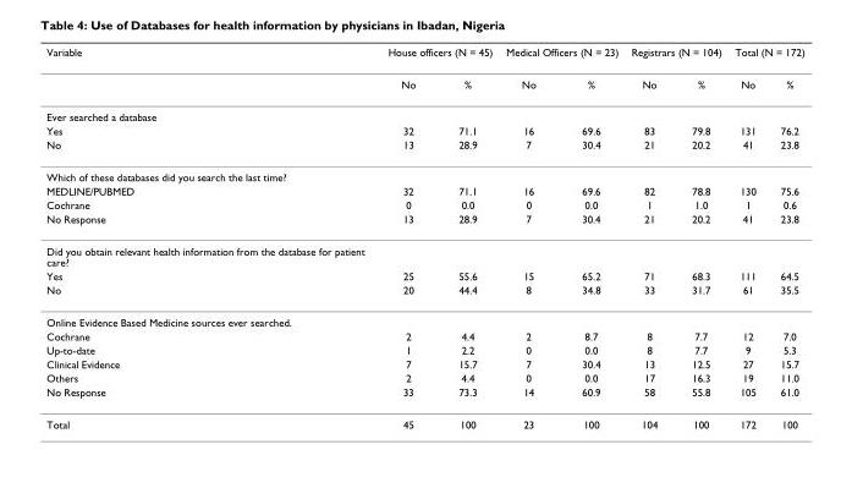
<table><thead><tr><td rowspan="2">Variable</td><td colspan="2">House officers (N = 45)</td><td colspan="2">Medical Officers (N = 23)</td><td colspan="2">Registrars (N = 104)</td><td colspan="2">Total (N = 172)</td></tr><tr><td>No</td><td>%</td><td>No</td><td>%</td><td>No</td><td>%</td><td>No</td><td>%</td></tr></thead><tbody><tr><td colspan="9">Ever searched a database</td></tr><tr><td>Yes</td><td>32</td><td>71.1</td><td>16</td><td>69.6</td><td>83</td><td>79.8</td><td>131</td><td>76.2</td></tr><tr><td>No</td><td>13</td><td>28.9</td><td>7</td><td>30.4</td><td>21</td><td>20.2</td><td>41</td><td>23.8</td></tr><tr><td colspan="9">Which of these databases did you search the last time?</td></tr><tr><td>MEDLINE/PUBMED</td><td>32</td><td>71.1</td><td>16</td><td>69.6</td><td>82</td><td>78.8</td><td>130</td><td>75.6</td></tr><tr><td>Cochrane</td><td>0</td><td>0.0</td><td>0</td><td>0.0</td><td>1</td><td>1.0</td><td>1</td><td>0.6</td></tr><tr><td>No Response</td><td>13</td><td>28.9</td><td>7</td><td>30.4</td><td>21</td><td>20.2</td><td>41</td><td>23.8</td></tr><tr><td colspan="9">Did you obtain relevant health information from the database for patient care?</td></tr><tr><td>Yes</td><td>25</td><td>55.6</td><td>15</td><td>65.2</td><td>71</td><td>68.3</td><td>111</td><td>64.5</td></tr><tr><td>No</td><td>20</td><td>44.4</td><td>8</td><td>34.8</td><td>33</td><td>31.7</td><td>61</td><td>35.5</td></tr><tr><td colspan="9">Online Evidence Based Medicine sources ever searched.</td></tr><tr><td>Cochrane</td><td>2</td><td>4.4</td><td>2</td><td>8.7</td><td>8</td><td>7.7</td><td>12</td><td>7.0</td></tr><tr><td>Up-to-date</td><td>1</td><td>2.2</td><td>0</td><td>0.0</td><td>8</td><td>7.7</td><td>9</td><td>5.3</td></tr><tr><td>Clinical Evidence</td><td>7</td><td>15.7</td><td>7</td><td>30.4</td><td>13</td><td>12.5</td><td>27</td><td>15.7</td></tr><tr><td>Others</td><td>2</td><td>4.4</td><td>0</td><td>0.0</td><td>17</td><td>16.3</td><td>19</td><td>11.0</td></tr><tr><td>No Response</td><td>33</td><td>73.3</td><td>14</td><td>60.9</td><td>58</td><td>55.8</td><td>105</td><td>61.0</td></tr><tr><td>Total</td><td>45</td><td>100</td><td>23</td><td>100</td><td>104</td><td>100</td><td>172</td><td>100</td></tr></tbody></table>